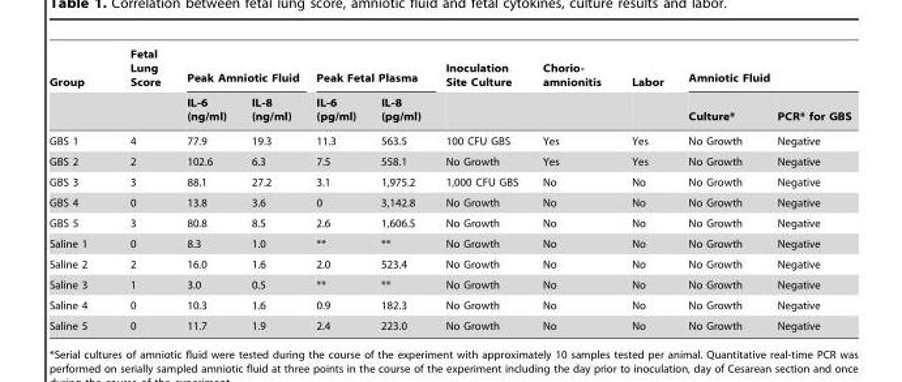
<table><thead><tr><td rowspan="2">Group</td><td rowspan="2">Fetal Lung Score</td><td colspan="2">Peak Amniotic Fluid</td><td colspan="2">Peak Fetal Plasma</td><td rowspan="2">Inoculation Site Culture</td><td rowspan="2">Chorio- amnionitis</td><td rowspan="2">Labor</td><td colspan="2">Amniotic Fluid</td></tr><tr><td>IL-6 (ng/ml)</td><td>IL-8 (ng/ml)</td><td>IL-6 (pg/ml)</td><td>IL-8 (pg/ml)</td><td>Culture*</td><td>PCR* for GBS</td></tr></thead><tbody><tr><td>GBS 1</td><td>4</td><td>77.9</td><td>19.3</td><td>11.3</td><td>563.5</td><td>100 CFU GBS</td><td>Yes</td><td>Yes</td><td>No Growth</td><td>Negative</td></tr><tr><td>GBS 2</td><td>2</td><td>102.6</td><td>6.3</td><td>7.5</td><td>558.1</td><td>No Growth</td><td>Yes</td><td>Yes</td><td>No Growth</td><td>Negative</td></tr><tr><td>GBS 3</td><td>3</td><td>88.1</td><td>27.2</td><td>3.1</td><td>1,975.2</td><td>1,000 CFU GBS</td><td>No</td><td>No</td><td>No Growth</td><td>Negative</td></tr><tr><td>GBS 4</td><td>0</td><td>13.8</td><td>3.6</td><td>0</td><td>3,142.8</td><td>No Growth</td><td>No</td><td>No</td><td>No Growth</td><td>Negative</td></tr><tr><td>GBS 5</td><td>3</td><td>80.8</td><td>8.5</td><td>2.6</td><td>1,606.5</td><td>No Growth</td><td>No</td><td>No</td><td>No Growth</td><td>Negative</td></tr><tr><td>Saline 1</td><td>0</td><td>8.3</td><td>1.0</td><td>**</td><td>**</td><td>No Growth</td><td>No</td><td>No</td><td>No Growth</td><td>Negative</td></tr><tr><td>Saline 2</td><td>2</td><td>16.0</td><td>1.6</td><td>2.0</td><td>523.4</td><td>No Growth</td><td>No</td><td>No</td><td>No Growth</td><td>Negative</td></tr><tr><td>Saline 3</td><td>1</td><td>3.0</td><td>0.5</td><td>**</td><td>**</td><td>No Growth</td><td>No</td><td>No</td><td>No Growth</td><td>Negative</td></tr><tr><td>Saline 4</td><td>0</td><td>10.3</td><td>1.6</td><td>0.9</td><td>182.3</td><td>No Growth</td><td>No</td><td>No</td><td>No Growth</td><td>Negative</td></tr><tr><td>Saline 5</td><td>0</td><td>11.7</td><td>1.9</td><td>2.4</td><td>223.0</td><td>No Growth</td><td>No</td><td>No</td><td>No Growth</td><td>Negative</td></tr></tbody></table>